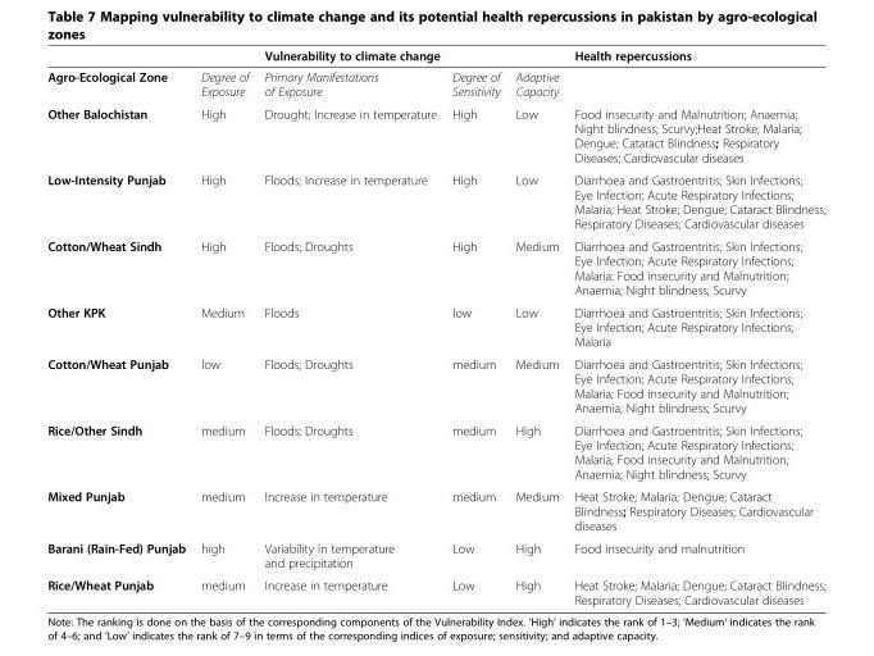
<table><thead><tr><td rowspan="2">Agro-Ecological Zone</td><td rowspan="2">Degree of Exposure</td><td colspan="3">Vulnerability to climate change</td><td rowspan="2">Health repercussions</td></tr><tr><td>Primary Manifestations of Exposure</td><td>Degree of Sensitivity</td><td>Adaptive Capacity</td></tr></thead><tbody><tr><td>Other Balochistan</td><td>High</td><td>Drought; Increase in temperature</td><td>High</td><td>Low</td><td>Food insecurity and Malnutrition; Anaemia; Night blindness; Scurvy;Heat Stroke; Malaria; Dengue; Cataract Blindness; Respiratory Diseases; Cardiovascular diseases</td></tr><tr><td>Low-Intensity Punjab</td><td>High</td><td>Floods; Increase in temperature</td><td>High</td><td>Low</td><td>Diarrhoea and Gastroentritis; Skin Infections; Eye Infection; Acute Respiratory Infections; Malaria; Heat Stroke; Dengue; Cataract Blindness; Respiratory Diseases; Cardiovascular diseases</td></tr><tr><td>Cotton/Wheat Sindh</td><td>High</td><td>Floods; Droughts</td><td>High</td><td>Medium</td><td>Diarrhoea and Gastroentritis; Skin Infections; Eye Infection; Acute Respiratory Infections; Malaria: Food insecurity and Malnutrition; Anaemia; Night blindness; Scurvy</td></tr><tr><td>Other KPK</td><td>Medium</td><td>Floods</td><td>low</td><td>Low</td><td>Diarrhoea and Gastroentritis; Skin Infections; Eye Infection; Acute Respiratory Infections; Malaria</td></tr><tr><td>Cotton/Wheat Punjab</td><td>low</td><td>Floods; Droughts</td><td>medium</td><td>Medium</td><td>Diarrhoea and Gastroentritis; Skin Infections; Eye Infection; Acute Respiratory Infections; Malaria; Food insecurity and Malnutrition; Anaemia; Night blindness; Scurvy</td></tr><tr><td>Rice/Other Sindh</td><td>medium</td><td>Floods; Droughts</td><td>medium</td><td>High</td><td>Diarrhoea and Gastroentritis; Skin Infections; Eye Infection; Acute Respiratory Infections; Malaria; Food insecurity and Malnutrition; Anaemia; Night blindness; Scurvy</td></tr><tr><td>Mixed Punjab</td><td>medium</td><td>Increase in temperature</td><td>medium</td><td>Medium</td><td>Heat Stroke; Malaria; Dengue; Cataract Blindness; Respiratory Diseases; Cardiovascular diseases</td></tr><tr><td>Barani (Rain-Fed) Punjab</td><td>high</td><td>Variability in temperature and precipitation</td><td>Low</td><td>High</td><td>Food insecurity and malnutrition</td></tr><tr><td>Rice/Wheat Punjab</td><td>medium</td><td>Increase in temperature</td><td>Low</td><td>High</td><td>Heat Stroke; Malaria; Dengue; Cataract Blindness; Respiratory Diseases; Cardiovascular diseases</td></tr></tbody></table>